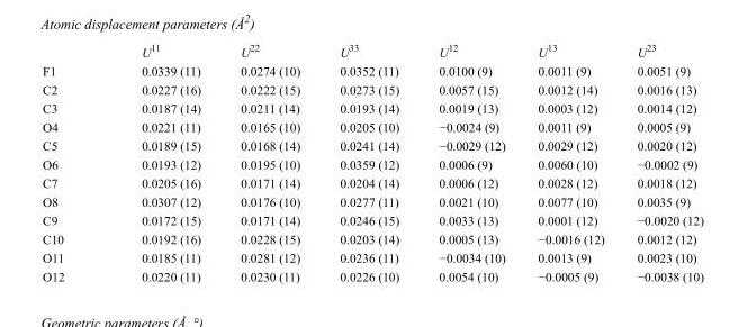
<table><thead><tr><td></td><td>U<sup>11</sup></td><td>U<sup>22</sup></td><td>U<sup>33</sup></td><td>U<sup>12</sup></td><td>U<sup>13</sup></td><td>U<sup>23</sup></td></tr></thead><tbody><tr><td>F1</td><td>0.0339 (11)</td><td>0.0274 (10)</td><td>0.0352 (11)</td><td>0.0100 (9)</td><td>0.0011 (9)</td><td>0.0051 (9)</td></tr><tr><td>C2</td><td>0.0227 (16)</td><td>0.0222 (15)</td><td>0.0273 (15)</td><td>0.0057 (15)</td><td>0.0012 (14)</td><td>0.0016 (13)</td></tr><tr><td>C3</td><td>0.0187 (14)</td><td>0.0211 (14)</td><td>0.0193 (14)</td><td>0.0019 (13)</td><td>0.0003 (12)</td><td>0.0014 (12)</td></tr><tr><td>O4</td><td>0.0221 (11)</td><td>0.0165 (10)</td><td>0.0205 (10)</td><td>−0.0024 (9)</td><td>0.0011 (9)</td><td>0.0005 (9)</td></tr><tr><td>C5</td><td>0.0189 (15)</td><td>0.0168 (14)</td><td>0.0241 (14)</td><td>−0.0029 (12)</td><td>0.0029 (12)</td><td>0.0020 (12)</td></tr><tr><td>O6</td><td>0.0193 (12)</td><td>0.0195 (10)</td><td>0.0359 (12)</td><td>0.0006 (9)</td><td>0.0060 (10)</td><td>−0.0002 (9)</td></tr><tr><td>C7</td><td>0.0205 (16)</td><td>0.0171 (14)</td><td>0.0204 (14)</td><td>0.0006 (12)</td><td>0.0028 (12)</td><td>0.0018 (12)</td></tr><tr><td>O8</td><td>0.0307 (12)</td><td>0.0176 (10)</td><td>0.0277 (11)</td><td>0.0021 (10)</td><td>0.0077 (10)</td><td>0.0035 (9)</td></tr><tr><td>C9</td><td>0.0172 (15)</td><td>0.0171 (14)</td><td>0.0246 (15)</td><td>0.0033 (13)</td><td>0.0001 (12)</td><td>−0.0020 (12)</td></tr><tr><td>C10</td><td>0.0192 (16)</td><td>0.0228 (15)</td><td>0.0203 (14)</td><td>0.0005 (13)</td><td>−0.0016 (12)</td><td>0.0012 (12)</td></tr><tr><td>O11</td><td>0.0185 (11)</td><td>0.0281 (12)</td><td>0.0236 (11)</td><td>−0.0034 (10)</td><td>0.0013 (9)</td><td>0.0023 (10)</td></tr><tr><td>O12</td><td>0.0220 (11)</td><td>0.0230 (11)</td><td>0.0226 (10)</td><td>0.0054 (10)</td><td>−0.0005 (9)</td><td>−0.0038 (10)</td></tr></tbody></table>